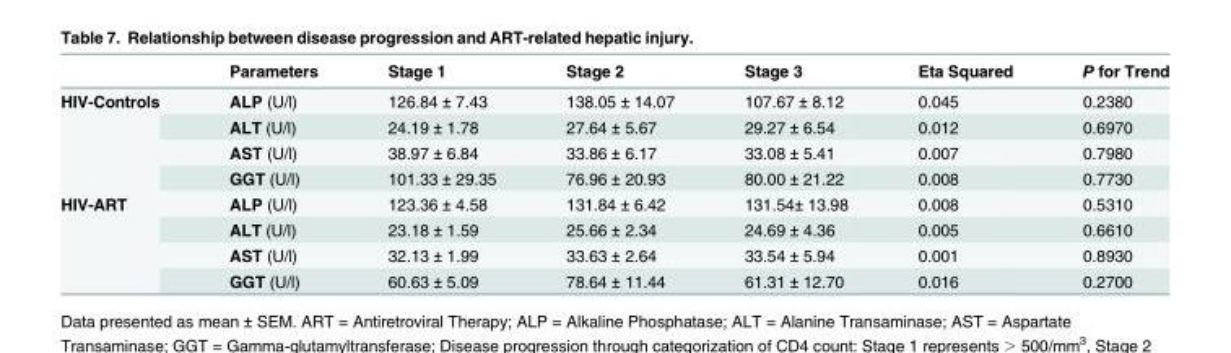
<table><thead><tr><td></td><td>Parameters</td><td>Stage 1</td><td>Stage 2</td><td>Stage 3</td><td>Eta Squared</td><td>P for Trend</td></tr></thead><tbody><tr><td rowspan="4">HIV-Controls</td><td>ALP (U/l)</td><td>126.84 ± 7.43</td><td>138.05 ± 14.07</td><td>107.67 ± 8.12</td><td>0.045</td><td>0.2380</td></tr><tr><td>ALT (U/l)</td><td>24.19 ± 1.78</td><td>27.64 ± 5.67</td><td>29.27 ± 6.54</td><td>0.012</td><td>0.6970</td></tr><tr><td>AST (U/l)</td><td>38.97 ± 6.84</td><td>33.86 ± 6.17</td><td>33.08 ± 5.41</td><td>0.007</td><td>0.7980</td></tr><tr><td>GGT (U/l)</td><td>101.33 ± 29.35</td><td>76.96 ± 20.93</td><td>80.00 ± 21.22</td><td>0.008</td><td>0.7730</td></tr><tr><td rowspan="4">HIV-ART</td><td>ALP (U/l)</td><td>123.36 ± 4.58</td><td>131.84 ± 6.42</td><td>131.54± 13.98</td><td>0.008</td><td>0.5310</td></tr><tr><td>ALT (U/l)</td><td>23.18 ± 1.59</td><td>25.66 ± 2.34</td><td>24.69 ± 4.36</td><td>0.005</td><td>0.6610</td></tr><tr><td>AST (U/l)</td><td>32.13 ± 1.99</td><td>33.63 ± 2.64</td><td>33.54 ± 5.94</td><td>0.001</td><td>0.8930</td></tr><tr><td>GGT (U/l)</td><td>60.63 ± 5.09</td><td>78.64 ± 11.44</td><td>61.31 ± 12.70</td><td>0.016</td><td>0.2700</td></tr></tbody></table>